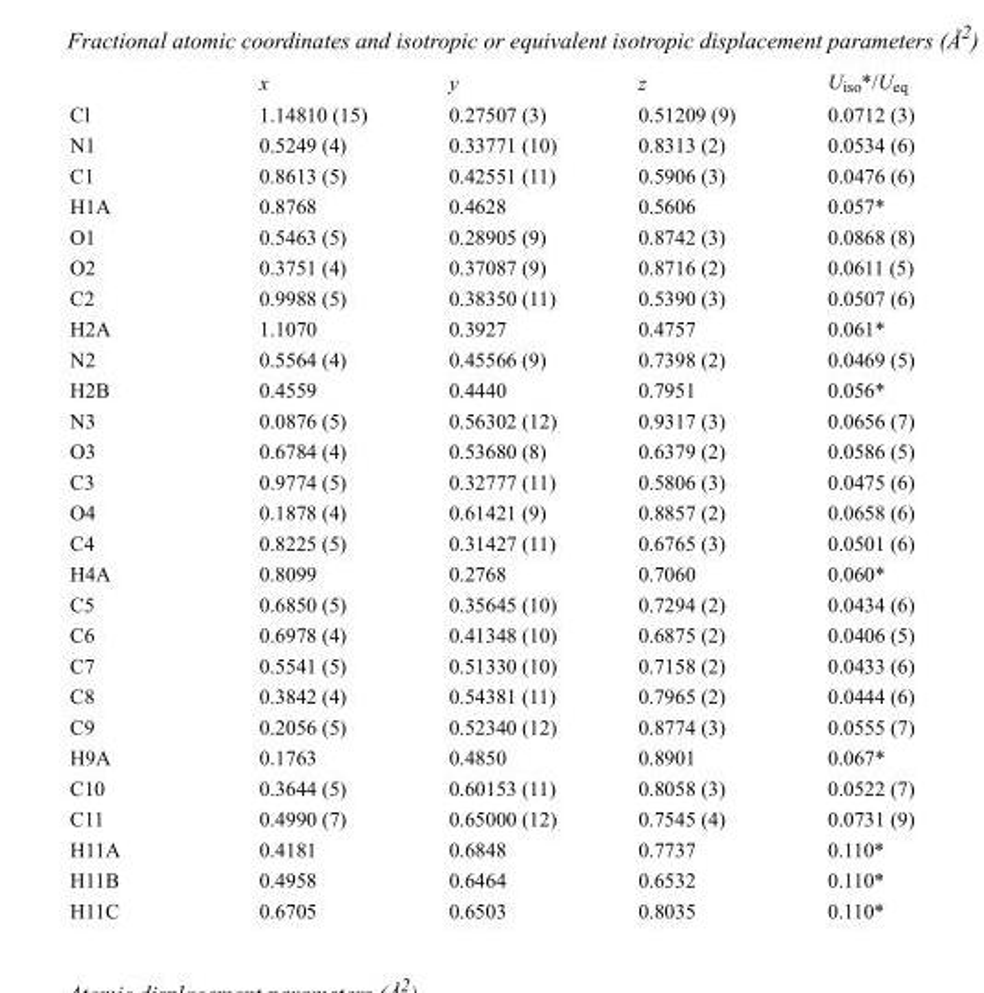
<table><thead><tr><td></td><td>x</td><td>y</td><td>z</td><td>U<sub>iso</sub>*/U<sub>eq</sub></td></tr></thead><tbody><tr><td>Cl</td><td>1.14810 (15)</td><td>0.27507 (3)</td><td>0.51209 (9)</td><td>0.0712 (3)</td></tr><tr><td>N1</td><td>0.5249 (4)</td><td>0.33771 (10)</td><td>0.8313 (2)</td><td>0.0534 (6)</td></tr><tr><td>C1</td><td>0.8613 (5)</td><td>0.42551 (11)</td><td>0.5906 (3)</td><td>0.0476 (6)</td></tr><tr><td>H1A</td><td>0.8768</td><td>0.4628</td><td>0.5606</td><td>0.057*</td></tr><tr><td>O1</td><td>0.5463 (5)</td><td>0.28905 (9)</td><td>0.8742 (3)</td><td>0.0868 (8)</td></tr><tr><td>O2</td><td>0.3751 (4)</td><td>0.37087 (9)</td><td>0.8716 (2)</td><td>0.0611 (5)</td></tr><tr><td>C2</td><td>0.9988 (5)</td><td>0.38350 (11)</td><td>0.5390 (3)</td><td>0.0507 (6)</td></tr><tr><td>H2A</td><td>1.1070</td><td>0.3927</td><td>0.4757</td><td>0.061*</td></tr><tr><td>N2</td><td>0.5564 (4)</td><td>0.45566 (9)</td><td>0.7398 (2)</td><td>0.0469 (5)</td></tr><tr><td>H2B</td><td>0.4559</td><td>0.4440</td><td>0.7951</td><td>0.056*</td></tr><tr><td>N3</td><td>0.0876 (5)</td><td>0.56302 (12)</td><td>0.9317 (3)</td><td>0.0656 (7)</td></tr><tr><td>O3</td><td>0.6784 (4)</td><td>0.53680 (8)</td><td>0.6379 (2)</td><td>0.0586 (5)</td></tr><tr><td>C3</td><td>0.9774 (5)</td><td>0.32777 (11)</td><td>0.5806 (3)</td><td>0.0475 (6)</td></tr><tr><td>O4</td><td>0.1878 (4)</td><td>0.61421 (9)</td><td>0.8857 (2)</td><td>0.0658 (6)</td></tr><tr><td>C4</td><td>0.8225 (5)</td><td>0.31427 (11)</td><td>0.6765 (3)</td><td>0.0501 (6)</td></tr><tr><td>H4A</td><td>0.8099</td><td>0.2768</td><td>0.7060</td><td>0.060*</td></tr><tr><td>C5</td><td>0.6850 (5)</td><td>0.35645 (10)</td><td>0.7294 (2)</td><td>0.0434 (6)</td></tr><tr><td>C6</td><td>0.6978 (4)</td><td>0.41348 (10)</td><td>0.6875 (2)</td><td>0.0406 (5)</td></tr><tr><td>C7</td><td>0.5541 (5)</td><td>0.51330 (10)</td><td>0.7158 (2)</td><td>0.0433 (6)</td></tr><tr><td>C8</td><td>0.3842 (4)</td><td>0.54381 (11)</td><td>0.7965 (2)</td><td>0.0444 (6)</td></tr><tr><td>C9</td><td>0.2056 (5)</td><td>0.52340 (12)</td><td>0.8774 (3)</td><td>0.0555 (7)</td></tr><tr><td>H9A</td><td>0.1763</td><td>0.4850</td><td>0.8901</td><td>0.067*</td></tr><tr><td>C10</td><td>0.3644 (5)</td><td>0.60153 (11)</td><td>0.8058 (3)</td><td>0.0522 (7)</td></tr><tr><td>C11</td><td>0.4990 (7)</td><td>0.65000 (12)</td><td>0.7545 (4)</td><td>0.0731 (9)</td></tr><tr><td>H11A</td><td>0.4181</td><td>0.6848</td><td>0.7737</td><td>0.110*</td></tr><tr><td>H11B</td><td>0.4958</td><td>0.6464</td><td>0.6532</td><td>0.110*</td></tr><tr><td>H11C</td><td>0.6705</td><td>0.6503</td><td>0.8035</td><td>0.110*</td></tr></tbody></table>